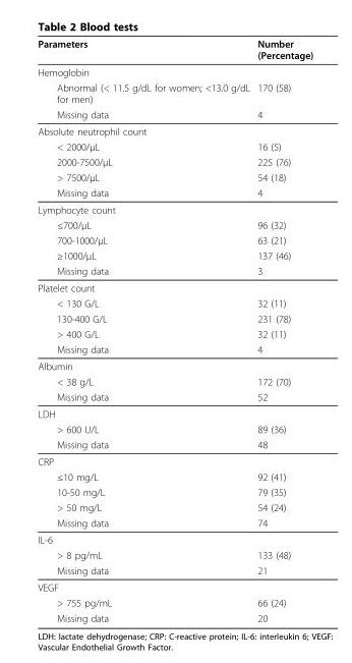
<table><thead><tr><td>Parameters</td><td>Number (Percentage)</td></tr></thead><tbody><tr><td colspan="2">Hemoglobin</td></tr><tr><td>Abnormal (&lt; 11.5 g/dL for women; &lt;13.0 g/dL for men)</td><td>170 (58)</td></tr><tr><td>Missing data</td><td>4</td></tr><tr><td colspan="2">Absolute neutrophil count</td></tr><tr><td>&lt; 2000/μL</td><td>16 (5)</td></tr><tr><td>2000-7500/μL</td><td>225 (76)</td></tr><tr><td>&gt; 7500/μL</td><td>54 (18)</td></tr><tr><td>Missing data</td><td>4</td></tr><tr><td colspan="2">Lymphocyte count</td></tr><tr><td>≤700/μL</td><td>96 (32)</td></tr><tr><td>700-1000/μL</td><td>63 (21)</td></tr><tr><td>≥1000/μL</td><td>137 (46)</td></tr><tr><td>Missing data</td><td>3</td></tr><tr><td colspan="2">Platelet count</td></tr><tr><td>&lt; 130 G/L</td><td>32 (11)</td></tr><tr><td>130-400 G/L</td><td>231 (78)</td></tr><tr><td>&gt; 400 G/L</td><td>32 (11)</td></tr><tr><td>Missing data</td><td>4</td></tr><tr><td colspan="2">Albumin</td></tr><tr><td>&lt; 38 g/L</td><td>172 (70)</td></tr><tr><td>Missing data</td><td>52</td></tr><tr><td colspan="2">LDH</td></tr><tr><td>&gt; 600 U/L</td><td>89 (36)</td></tr><tr><td>Missing data</td><td>48</td></tr><tr><td colspan="2">CRP</td></tr><tr><td>≤10 mg/L</td><td>92 (41)</td></tr><tr><td>10-50 mg/L</td><td>79 (35)</td></tr><tr><td>&gt; 50 mg/L</td><td>54 (24)</td></tr><tr><td>Missing data</td><td>74</td></tr><tr><td colspan="2">IL-6</td></tr><tr><td>&gt; 8 pg/mL</td><td>133 (48)</td></tr><tr><td>Missing data</td><td>21</td></tr><tr><td colspan="2">VEGF</td></tr><tr><td>&gt; 755 pg/mL</td><td>66 (24)</td></tr><tr><td>Missing data</td><td>20</td></tr></tbody></table>